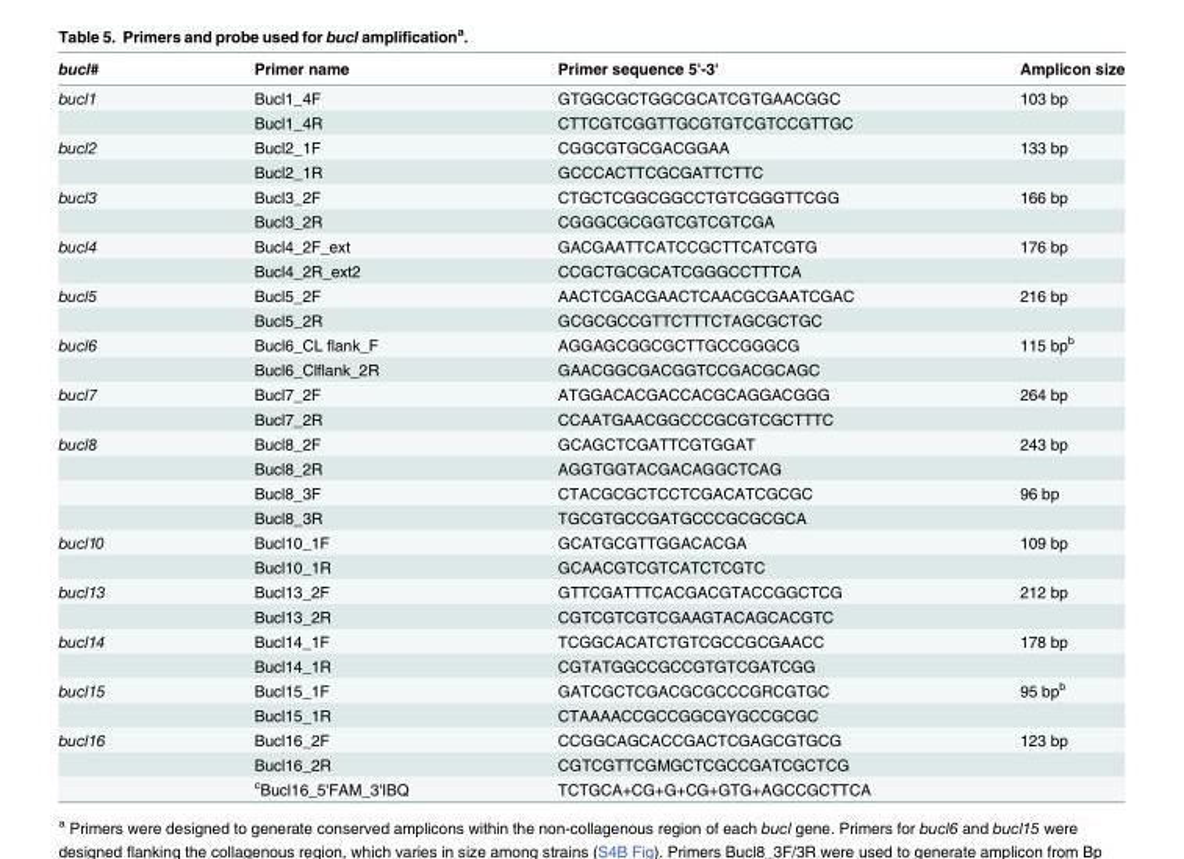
<table><thead><tr><td>bucl#</td><td>Primer name</td><td>Primer sequence 5&#x27;-3&#x27;</td><td>Amplicon size</td></tr></thead><tbody><tr><td rowspan="2">bucl1</td><td>Bucl1_4F</td><td>GTGGCGCTGGCGCATCGTGAACGGC</td><td>103 bp</td></tr><tr><td>Bucl1_4R</td><td>CTTCGTCGGTTGCGTGTCGTCCGTTGC</td><td></td></tr><tr><td rowspan="2">bucl2</td><td>Bucl2_1F</td><td>CGGCGTGCGACGGAA</td><td>133 bp</td></tr><tr><td>Bucl2_1R</td><td>GCCCACTTCGCGATTCTTC</td><td></td></tr><tr><td rowspan="2">bucl3</td><td>Bucl3_2F</td><td>CTGCTCGGCGGCCTGTCGGGTTCGG</td><td>166 bp</td></tr><tr><td>Bucl3_2R</td><td>CGGGCGCGGTCGTCGTCGA</td><td></td></tr><tr><td rowspan="2">bucl4</td><td>Bucl4_2F_ext</td><td>GACGAATTCATCCGCTTCATCGTG</td><td>176 bp</td></tr><tr><td>Bucl4_2R_ext2</td><td>CCGCTGCGCATCGGGCCTTTCA</td><td></td></tr><tr><td rowspan="2">bucl5</td><td>Bucl5_2F</td><td>AACTCGACGAACTCAACGCGAATCGAC</td><td>216 bp</td></tr><tr><td>Bucl5_2R</td><td>GCGCGCCGTTCTTTCTAGCGCTGC</td><td></td></tr><tr><td rowspan="2">bucl6</td><td>Bucl6_CL flank_F</td><td>AGGAGCGGCGCTTGCCGGGCG</td><td>115 bp<sup>b</sup></td></tr><tr><td>Bucl6_Clflank_2R</td><td>GAACGGCGACGGTCCGACGCAGC</td><td></td></tr><tr><td rowspan="2">bucl7</td><td>Bucl7_2F</td><td>ATGGACACGACCACGCAGGACGGG</td><td>264 bp</td></tr><tr><td>Bucl7_2R</td><td>CCAATGAACGGCCCGCGTCGCTTTC</td><td></td></tr><tr><td rowspan="4">bucl8</td><td>Bucl8_2F</td><td>GCAGCTCGATTCGTGGAT</td><td>243 bp</td></tr><tr><td>Bucl8_2R</td><td>AGGTGGTACGACAGGCTCAG</td><td></td></tr><tr><td>Bucl8_3F</td><td>CTACGCGCTCCTCGACATCGCGC</td><td>96 bp</td></tr><tr><td>Bucl8_3R</td><td>TGCGTGCCGATGCCCGCGCGCA</td><td></td></tr><tr><td rowspan="2">bucl10</td><td>Bucl10_1F</td><td>GCATGCGTTGGACACGA</td><td>109 bp</td></tr><tr><td>Bucl10_1R</td><td>GCAACGTCGTCATCTCGTC</td><td></td></tr><tr><td rowspan="2">bucl13</td><td>Bucl13_2F</td><td>GTTCGATTTCACGACGTACCGGCTCG</td><td>212 bp</td></tr><tr><td>Bucl13_2R</td><td>CGTCGTCGTCGAAGTACAGCACGTC</td><td></td></tr><tr><td rowspan="2">bucl14</td><td>Bucl14_1F</td><td>TCGGCACATCTGTCGCCGCGAACC</td><td>178 bp</td></tr><tr><td>Bucl14_1R</td><td>CGTATGGCCGCCGTGTCGATCGG</td><td></td></tr><tr><td rowspan="2">bucl15</td><td>Bucl15_1F</td><td>GATCGCTCGACGCGCCCGRCGTGC</td><td>95 bp<sup>b</sup></td></tr><tr><td>Bucl15_1R</td><td>CTAAAACCGCCGGCGYGCCGCGC</td><td></td></tr><tr><td rowspan="3">bucl16</td><td>Bucl16_2F</td><td>CCGGCAGCACCGACTCGAGCGTGCG</td><td>123 bp</td></tr><tr><td>Bucl16_2R</td><td>CGTCGTTCGMGCTCGCCGATCGCTCG</td><td></td></tr><tr><td><sup>c</sup>Bucl16_5&#x27;FAM_3&#x27;IBQ</td><td>TCTGCA+CG+G+CG+GTG+AGCCGCTTCA</td><td></td></tr></tbody></table>